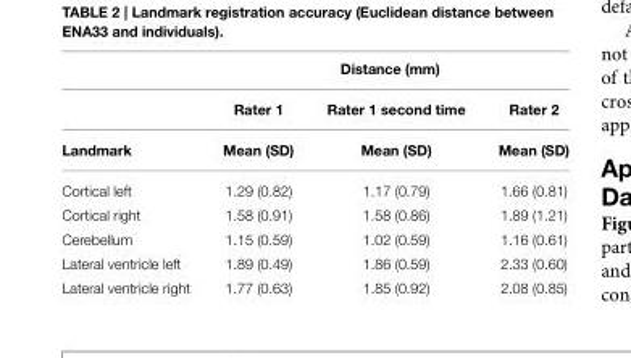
<table><thead><tr><td rowspan="3">Landmark</td><td colspan="3">Distance (mm)</td></tr><tr><td rowspan="2">Rater 1 Mean (SD)</td><td rowspan="2">Rater 1 second time Mean (SD)</td><td rowspan="2">Rater 2 Mean (SD)</td></tr><tr></tr></thead><tbody><tr><td>Cortical left</td><td>1.29 (0.82)</td><td>1.17 (0.79)</td><td>1.66 (0.81)</td></tr><tr><td>Cortical right</td><td>1.58 (0.91)</td><td>1.58 (0.86)</td><td>1.89 (1.21)</td></tr><tr><td>Cerebellum</td><td>1.15 (0.59)</td><td>1.02 (0.59)</td><td>1.16 (0.61)</td></tr><tr><td>Lateral ventricle left</td><td>1.89 (0.49)</td><td>1.86 (0.59)</td><td>2.33 (0.60)</td></tr><tr><td>Lateral ventricle right</td><td>1.77 (0.63)</td><td>1.85 (0.92)</td><td>2.08 (0.85)</td></tr></tbody></table>